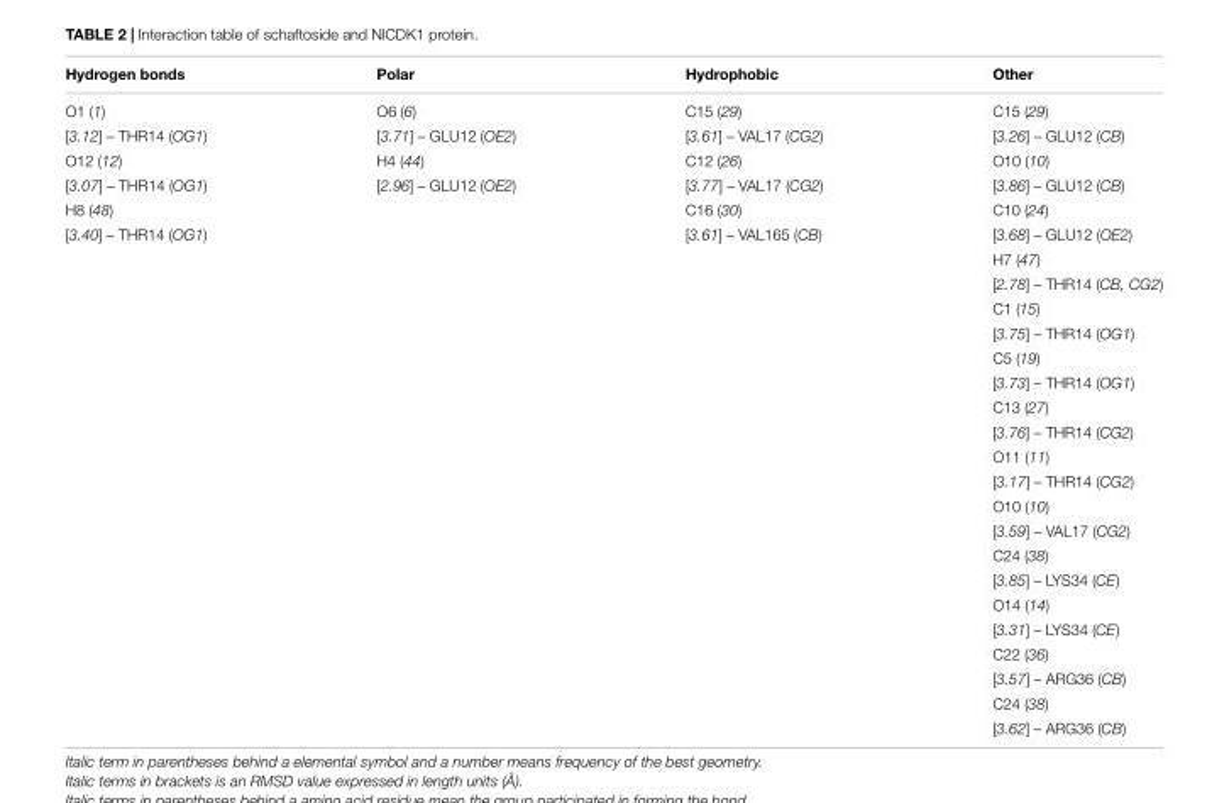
<table><thead><tr><td>Hydrogen bonds</td><td>Polar</td><td>Hydrophobic</td><td>Other</td></tr></thead><tbody><tr><td>O1 (1)</td><td>O6 (6)</td><td>C15 (29)</td><td>C15 (29)</td></tr><tr><td>[3.12] – THR14 (OG1)</td><td>[3.71] – GLU12 (OE2)</td><td>[3.61] – VAL17 (CG2)</td><td>[3.26] – GLU12 (CB)</td></tr><tr><td>O12 (12)</td><td>H4 (44)</td><td>C12 (26)</td><td>O10 (10)</td></tr><tr><td>[3.07] – THR14 (OG1)</td><td>[2.96] – GLU12 (OE2)</td><td>[3.77] – VAL17 (CG2)</td><td>[3.86] – GLU12 (CB)</td></tr><tr><td>H8 (48)</td><td></td><td>C16 (30)</td><td>C10 (24)</td></tr><tr><td rowspan="21">[3.40] – THR14 (OG1)</td><td></td><td>[3.61] – VAL165 (CB)</td><td>[3.68] – GLU12 (OE2)</td></tr><tr><td></td><td></td><td>H7 (47)</td></tr><tr><td></td><td></td><td>[2.78] – THR14 (CB, CG2)</td></tr><tr><td></td><td></td><td>C1 (15)</td></tr><tr><td></td><td></td><td>[3.75] – THR14 (OG1)</td></tr><tr><td></td><td></td><td>C5 (19)</td></tr><tr><td></td><td></td><td>[3.73] – THR14 (OG1)</td></tr><tr><td></td><td></td><td>C13 (27)</td></tr><tr><td></td><td></td><td>[3.76] – THR14 (CG2)</td></tr><tr><td></td><td></td><td>O11 (11)</td></tr><tr><td></td><td></td><td>[3.17] – THR14 (CG2)</td></tr><tr><td></td><td></td><td>O10 (10)</td></tr><tr><td></td><td></td><td>[3.59] – VAL17 (CG2)</td></tr><tr><td></td><td></td><td>C24 (38)</td></tr><tr><td></td><td></td><td>[3.85] – LYS34 (CE)</td></tr><tr><td></td><td></td><td>O14 (14)</td></tr><tr><td></td><td></td><td>[3.31] – LYS34 (CE)</td></tr><tr><td></td><td></td><td>C22 (36)</td></tr><tr><td></td><td></td><td>[3.57] – ARG36 (CB)</td></tr><tr><td></td><td></td><td>C24 (38)</td></tr><tr><td></td><td></td><td>[3.62] – ARG36 (CB)</td></tr></tbody></table>